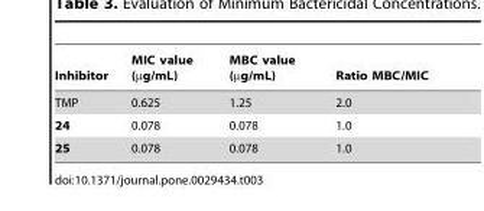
<table><thead><tr><td>Inhibitor</td><td>MIC value (µg/mL)</td><td>MBC value (µg/mL)</td><td>Ratio MBC/MIC</td></tr></thead><tbody><tr><td>TMP</td><td>0.625</td><td>1.25</td><td>2.0</td></tr><tr><td>24</td><td>0.078</td><td>0.078</td><td>1.0</td></tr><tr><td>25</td><td>0.078</td><td>0.078</td><td>1.0</td></tr></tbody></table>